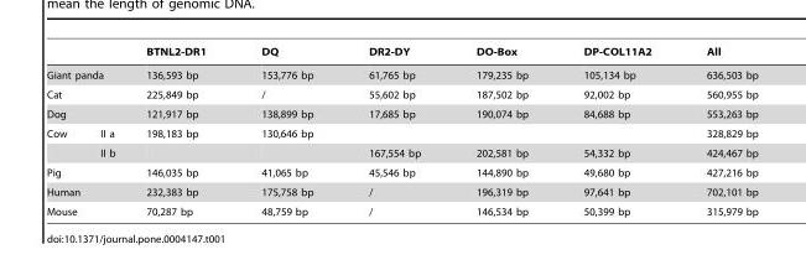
<table><thead><tr><td></td><td></td><td>BTNL2-DR1</td><td>DQ</td><td>DR2-DY</td><td>DO-Box</td><td>DP-COL11A2</td><td>All</td></tr></thead><tbody><tr><td colspan="2">Giant panda</td><td>136,593 bp</td><td>153,776 bp</td><td>61,765 bp</td><td>179,235 bp</td><td>105,134 bp</td><td>636,503 bp</td></tr><tr><td colspan="2">Cat</td><td>225,849 bp</td><td>/</td><td>55,602 bp</td><td>187,502 bp</td><td>92,002 bp</td><td>560,955 bp</td></tr><tr><td colspan="2">Dog</td><td>121,917 bp</td><td>138,899 bp</td><td>17,685 bp</td><td>190,074 bp</td><td>84,688 bp</td><td>553,263 bp</td></tr><tr><td rowspan="2">Cow</td><td>II a</td><td>198,183 bp</td><td>130,646 bp</td><td></td><td></td><td></td><td>328,829 bp</td></tr><tr><td>II b</td><td></td><td></td><td>167,554 bp</td><td>202,581 bp</td><td>54,332 bp</td><td>424,467 bp</td></tr><tr><td colspan="2">Pig</td><td>146,035 bp</td><td>41,065 bp</td><td>45,546 bp</td><td>144,890 bp</td><td>49,680 bp</td><td>427,216 bp</td></tr><tr><td colspan="2">Human</td><td>232,383 bp</td><td>175,758 bp</td><td>/</td><td>196,319 bp</td><td>97,641 bp</td><td>702,101 bp</td></tr><tr><td colspan="2">Mouse</td><td>70,287 bp</td><td>48,759 bp</td><td>/</td><td>146,534 bp</td><td>50,399 bp</td><td>315,979 bp</td></tr></tbody></table>